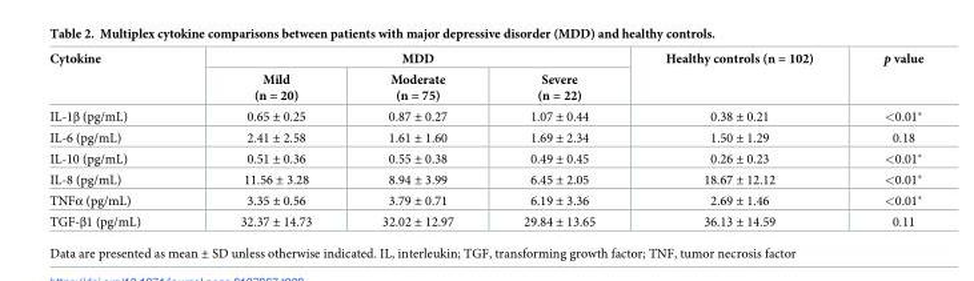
<table><thead><tr><td rowspan="2">Cytokine</td><td colspan="3">MDD</td><td rowspan="2">Healthy controls (n = 102)</td><td rowspan="2">p value</td></tr><tr><td>Mild (n = 20)</td><td>Moderate (n = 75)</td><td>Severe (n = 22)</td></tr></thead><tbody><tr><td>IL-1β (pg/mL)</td><td>0.65 ± 0.25</td><td>0.87 ± 0.27</td><td>1.07 ± 0.44</td><td>0.38 ± 0.21</td><td>&lt;0.01*</td></tr><tr><td>IL-6 (pg/mL)</td><td>2.41 ± 2.58</td><td>1.61 ± 1.60</td><td>1.69 ± 2.34</td><td>1.50 ± 1.29</td><td>0.18</td></tr><tr><td>IL-10 (pg/mL)</td><td>0.51 ± 0.36</td><td>0.55 ± 0.38</td><td>0.49 ± 0.45</td><td>0.26 ± 0.23</td><td>&lt;0.01*</td></tr><tr><td>IL-8 (pg/mL)</td><td>11.56 ± 3.28</td><td>8.94 ± 3.99</td><td>6.45 ± 2.05</td><td>18.67 ± 12.12</td><td>&lt;0.01*</td></tr><tr><td>TNFα (pg/mL)</td><td>3.35 ± 0.56</td><td>3.79 ± 0.71</td><td>6.19 ± 3.36</td><td>2.69 ± 1.46</td><td>&lt;0.01*</td></tr><tr><td>TGF-β1 (pg/mL)</td><td>32.37 ± 14.73</td><td>32.02 ± 12.97</td><td>29.84 ± 13.65</td><td>36.13 ± 14.59</td><td>0.11</td></tr></tbody></table>